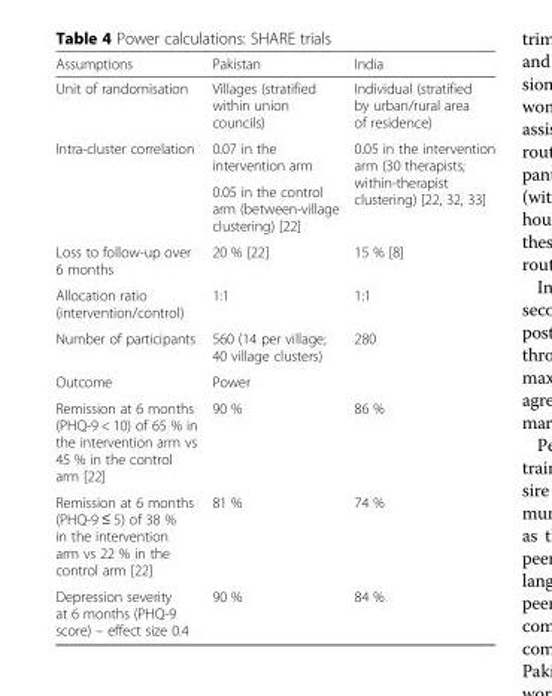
<table><thead><tr><td>Assumptions</td><td>Pakistan</td><td>India</td></tr></thead><tbody><tr><td>Unit of randomisation</td><td>Villages (stratified within union councils)</td><td>Individual (stratified by urban/rural area of residence)</td></tr><tr><td rowspan="2">Intra-cluster correlation</td><td>0.07 in the intervention arm</td><td rowspan="2">0.05 in the intervention arm (30 therapists; within-therapist clustering) [22, 32, 33]</td></tr><tr><td>0.05 in the control arm (between-village clustering) [22]</td></tr><tr><td>Loss to follow-up over 6 months</td><td>20 % [22]</td><td>15 % [8]</td></tr><tr><td>Allocation ratio (intervention/control)</td><td>1:1</td><td>1:1</td></tr><tr><td>Number of participants</td><td>560 (14 per village; 40 village clusters)</td><td>280</td></tr><tr><td>Outcome</td><td colspan="2">Power</td></tr><tr><td>Remission at 6 months (PHQ-9 &lt; 10) of 65 % in the intervention arm vs 45 % in the control arm [22]</td><td>90 %</td><td>86 %</td></tr><tr><td>Remission at 6 months (PHQ-9 ≤ 5) of 38 % in the intervention arm vs 22 % in the control arm [22]</td><td>81 %</td><td>74 %</td></tr><tr><td>Depression severity at 6 months (PHQ-9 score) – effect size 0.4</td><td>90 %</td><td>84 %</td></tr></tbody></table>